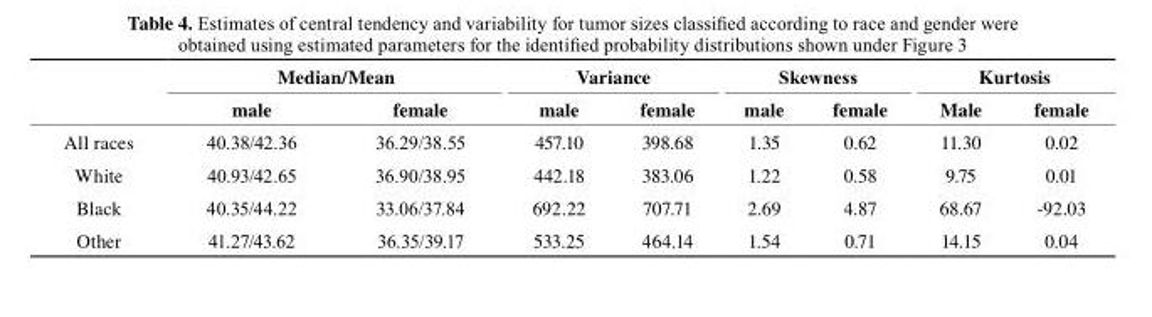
<table><thead><tr><td rowspan="2"></td><td colspan="2">Median/Mean</td><td colspan="2">Variance</td><td colspan="2">Skewness</td><td colspan="2">Kurtosis</td></tr><tr><td>male</td><td>female</td><td>male</td><td>female</td><td>male</td><td>female</td><td>Male</td><td>female</td></tr></thead><tbody><tr><td>All races</td><td>40.38/42.36</td><td>36.29/38.55</td><td>457.10</td><td>398.68</td><td>1.35</td><td>0.62</td><td>11.30</td><td>0.02</td></tr><tr><td>White</td><td>40.93/42.65</td><td>36.90/38.95</td><td>442.18</td><td>383.06</td><td>1.22</td><td>0.58</td><td>9.75</td><td>0.01</td></tr><tr><td>Black</td><td>40.35/44.22</td><td>33.06/37.84</td><td>692.22</td><td>707.71</td><td>2.69</td><td>4.87</td><td>68.67</td><td>-92.03</td></tr><tr><td>Other</td><td>41.27/43.62</td><td>36.35/39.17</td><td>533.25</td><td>464.14</td><td>1.54</td><td>0.71</td><td>14.15</td><td>0.04</td></tr></tbody></table>